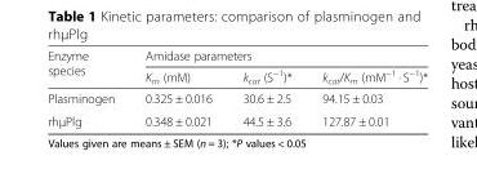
<table><thead><tr><td rowspan="2">Enzyme species</td><td colspan="3">Amidase parameters</td></tr><tr><td>K<sub>m</sub> (mM)</td><td>k<sub>cat</sub> (S<sup>−1</sup>)*</td><td>k<sub>cat</sub>/K<sub>m</sub> (mM<sup>−1</sup> · S<sup>−1</sup>)*</td></tr></thead><tbody><tr><td>Plasminogen</td><td>0.325 ± 0.016</td><td>30.6 ± 2.5</td><td>94.15 ± 0.03</td></tr><tr><td>rhμPlg</td><td>0.348 ± 0.021</td><td>44.5 ± 3.6</td><td>127.87 ± 0.01</td></tr></tbody></table>